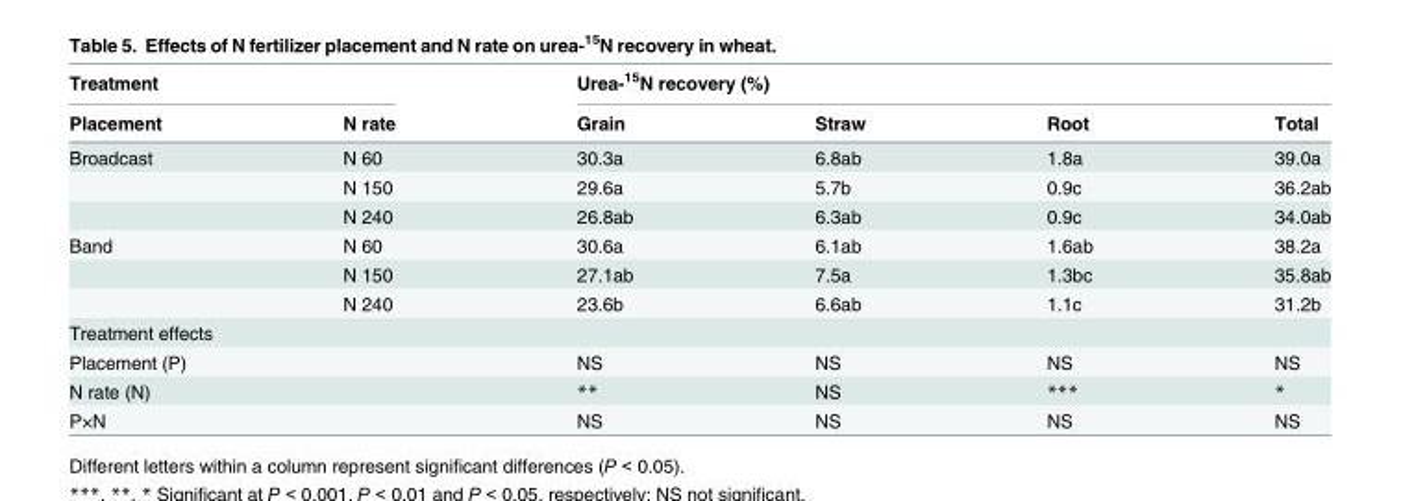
<table><thead><tr><td colspan="2">Treatment</td><td colspan="4">Urea-<sup>15</sup>N recovery (%)</td></tr><tr><td>Placement</td><td>N rate</td><td>Grain</td><td>Straw</td><td>Root</td><td>Total</td></tr></thead><tbody><tr><td rowspan="3">Broadcast</td><td>N 60</td><td>30.3a</td><td>6.8ab</td><td>1.8a</td><td>39.0a</td></tr><tr><td>N 150</td><td>29.6a</td><td>5.7b</td><td>0.9c</td><td>36.2ab</td></tr><tr><td>N 240</td><td>26.8ab</td><td>6.3ab</td><td>0.9c</td><td>34.0ab</td></tr><tr><td rowspan="3">Band</td><td>N 60</td><td>30.6a</td><td>6.1ab</td><td>1.6ab</td><td>38.2a</td></tr><tr><td>N 150</td><td>27.1ab</td><td>7.5a</td><td>1.3bc</td><td>35.8ab</td></tr><tr><td>N 240</td><td>23.6b</td><td>6.6ab</td><td>1.1c</td><td>31.2b</td></tr><tr><td colspan="6">Treatment effects</td></tr><tr><td colspan="2">Placement (P)</td><td>NS</td><td>NS</td><td>NS</td><td>NS</td></tr><tr><td colspan="2">N rate (N)</td><td>**</td><td>NS</td><td>***</td><td>*</td></tr><tr><td colspan="2">P×N</td><td>NS</td><td>NS</td><td>NS</td><td>NS</td></tr></tbody></table>